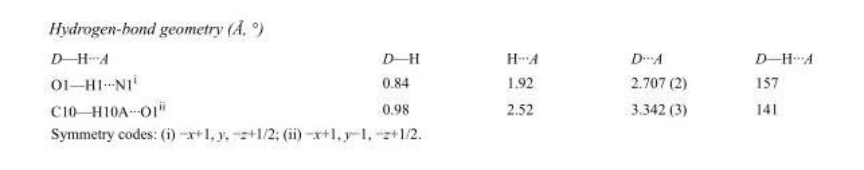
<table><tbody><tr><td>D—H···A</td><td>D—H</td><td>H···A</td><td>D···A</td><td>D—H···A</td></tr><tr><td>O1—H1···N1<sup>i</sup></td><td>0.84</td><td>1.92</td><td>2.707 (2)</td><td>157</td></tr><tr><td>C10—H10A···O1<sup>ii</sup></td><td>0.98</td><td>2.52</td><td>3.342 (3)</td><td>141</td></tr></tbody></table>